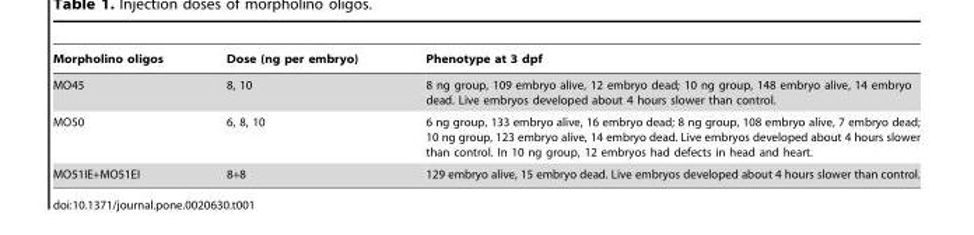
<table><thead><tr><td>Morpholino oligos</td><td>Dose (ng per embryo)</td><td>Phenotype at 3 dpf</td></tr></thead><tbody><tr><td>MO45</td><td>8, 10</td><td>8 ng group, 109 embryo alive, 12 embryo dead; 10 ng group, 148 embryo alive, 14 embryo dead. Live embryos developed about 4 hours slower than control.</td></tr><tr><td>MO50</td><td>6, 8, 10</td><td>6 ng group, 133 embryo alive, 16 embryo dead; 8 ng group, 108 embryo alive, 7 embryo dead; 10 ng group, 123 embryo alive, 14 embryo dead. Live embryos developed about 4 hours slower than control. In 10 ng group, 12 embryos had defects in head and heart.</td></tr><tr><td>MO51IE+MO51EI</td><td>8+8</td><td>129 embryo alive, 15 embryo dead. Live embryos developed about 4 hours slower than control.</td></tr></tbody></table>